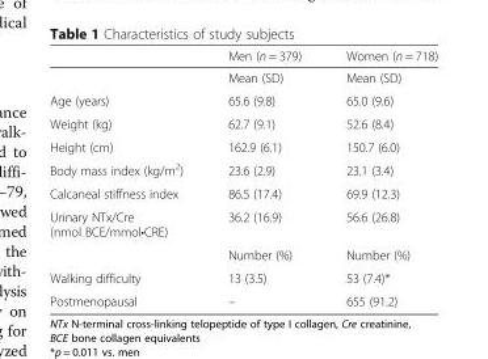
<table><thead><tr><td></td><td>Men (n = 379)</td><td>Women (n = 718)</td></tr></thead><tbody><tr><td></td><td>Mean (SD)</td><td>Mean (SD)</td></tr><tr><td>Age (years)</td><td>65.6 (9.8)</td><td>65.0 (9.6)</td></tr><tr><td>Weight (kg)</td><td>62.7 (9.1)</td><td>52.6 (8.4)</td></tr><tr><td>Height (cm)</td><td>162.9 (6.1)</td><td>150.7 (6.0)</td></tr><tr><td>Body mass index (kg/m<sup>2</sup>)</td><td>23.6 (2.9)</td><td>23.1 (3.4)</td></tr><tr><td>Calcaneal stiffness index</td><td>86.5 (17.4)</td><td>69.9 (12.3)</td></tr><tr><td rowspan="2">Urinary NTx/Cre (nmol BCE/mmol•CRE)</td><td>36.2 (16.9)</td><td>56.6 (26.8)</td></tr><tr><td>Number (%)</td><td>Number (%)</td></tr><tr><td>Walking difficulty</td><td>13 (3.5)</td><td>53 (7.4)*</td></tr><tr><td>Postmenopausal</td><td>–</td><td>655 (91.2)</td></tr></tbody></table>